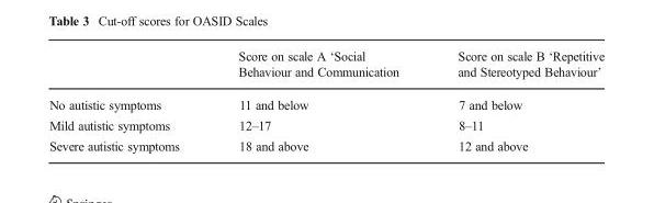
<table><thead><tr><td></td><td>Score on scale A ‘Social Behaviour and Communication</td><td>Score on scale B ‘Repetitive and Stereotyped Behaviour’</td></tr></thead><tbody><tr><td>No autistic symptoms</td><td>11 and below</td><td>7 and below</td></tr><tr><td>Mild autistic symptoms</td><td>12–17</td><td>8–11</td></tr><tr><td>Severe autistic symptoms</td><td>18 and above</td><td>12 and above</td></tr></tbody></table>